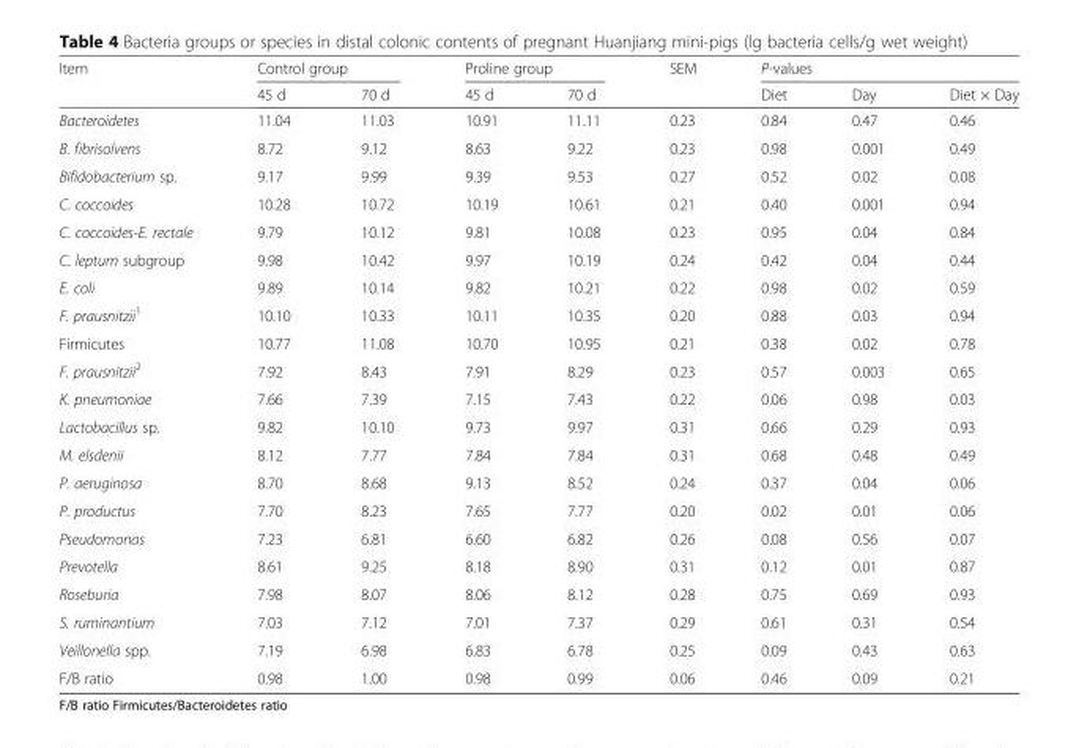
<table><thead><tr><td rowspan="2">Item</td><td colspan="2">Control group</td><td colspan="2">Proline group</td><td rowspan="2">SEM</td><td colspan="3">P-values</td></tr><tr><td>45 d</td><td>70 d</td><td>45 d</td><td>70 d</td><td>Diet</td><td>Day</td><td>Diet × Day</td></tr></thead><tbody><tr><td>Bacteroidetes</td><td>11.04</td><td>11.03</td><td>10.91</td><td>11.11</td><td>0.23</td><td>0.84</td><td>0.47</td><td>0.46</td></tr><tr><td>B. fibrisolvens</td><td>8.72</td><td>9.12</td><td>8.63</td><td>9.22</td><td>0.23</td><td>0.98</td><td>0.001</td><td>0.49</td></tr><tr><td>Bifidobacterium sp.</td><td>9.17</td><td>9.99</td><td>9.39</td><td>9.53</td><td>0.27</td><td>0.52</td><td>0.02</td><td>0.08</td></tr><tr><td>C. coccoides</td><td>10.28</td><td>10.72</td><td>10.19</td><td>10.61</td><td>0.21</td><td>0.40</td><td>0.001</td><td>0.94</td></tr><tr><td>C. coccoides-E. rectale</td><td>9.79</td><td>10.12</td><td>9.81</td><td>10.08</td><td>0.23</td><td>0.95</td><td>0.04</td><td>0.84</td></tr><tr><td>C. leptum subgroup</td><td>9.98</td><td>10.42</td><td>9.97</td><td>10.19</td><td>0.24</td><td>0.42</td><td>0.04</td><td>0.44</td></tr><tr><td>E. coli</td><td>9.89</td><td>10.14</td><td>9.82</td><td>10.21</td><td>0.22</td><td>0.98</td><td>0.02</td><td>0.59</td></tr><tr><td>F. prausnitzii<sup>1</sup></td><td>10.10</td><td>10.33</td><td>10.11</td><td>10.35</td><td>0.20</td><td>0.88</td><td>0.03</td><td>0.94</td></tr><tr><td>Firmicutes</td><td>10.77</td><td>11.08</td><td>10.70</td><td>10.95</td><td>0.21</td><td>0.38</td><td>0.02</td><td>0.78</td></tr><tr><td>F. prausnitzii<sup>2</sup></td><td>7.92</td><td>8.43</td><td>7.91</td><td>8.29</td><td>0.23</td><td>0.57</td><td>0.003</td><td>0.65</td></tr><tr><td>K. pneumoniae</td><td>7.66</td><td>7.39</td><td>7.15</td><td>7.43</td><td>0.22</td><td>0.06</td><td>0.98</td><td>0.03</td></tr><tr><td>Lactobacillus sp.</td><td>9.82</td><td>10.10</td><td>9.73</td><td>9.97</td><td>0.31</td><td>0.66</td><td>0.29</td><td>0.93</td></tr><tr><td>M. elsdenii</td><td>8.12</td><td>7.77</td><td>7.84</td><td>7.84</td><td>0.31</td><td>0.68</td><td>0.48</td><td>0.49</td></tr><tr><td>P. aeruginosa</td><td>8.70</td><td>8.68</td><td>9.13</td><td>8.52</td><td>0.24</td><td>0.37</td><td>0.04</td><td>0.06</td></tr><tr><td>P. productus</td><td>7.70</td><td>8.23</td><td>7.65</td><td>7.77</td><td>0.20</td><td>0.02</td><td>0.01</td><td>0.06</td></tr><tr><td>Pseudomonas</td><td>7.23</td><td>6.81</td><td>6.60</td><td>6.82</td><td>0.26</td><td>0.08</td><td>0.56</td><td>0.07</td></tr><tr><td>Prevotella</td><td>8.61</td><td>9.25</td><td>8.18</td><td>8.90</td><td>0.31</td><td>0.12</td><td>0.01</td><td>0.87</td></tr><tr><td>Roseburia</td><td>7.98</td><td>8.07</td><td>8.06</td><td>8.12</td><td>0.28</td><td>0.75</td><td>0.69</td><td>0.93</td></tr><tr><td>S. ruminantium</td><td>7.03</td><td>7.12</td><td>7.01</td><td>7.37</td><td>0.29</td><td>0.61</td><td>0.31</td><td>0.54</td></tr><tr><td>Veillonella spp.</td><td>7.19</td><td>6.98</td><td>6.83</td><td>6.78</td><td>0.25</td><td>0.09</td><td>0.43</td><td>0.63</td></tr><tr><td>F/B ratio</td><td>0.98</td><td>1.00</td><td>0.98</td><td>0.99</td><td>0.06</td><td>0.46</td><td>0.09</td><td>0.21</td></tr></tbody></table>